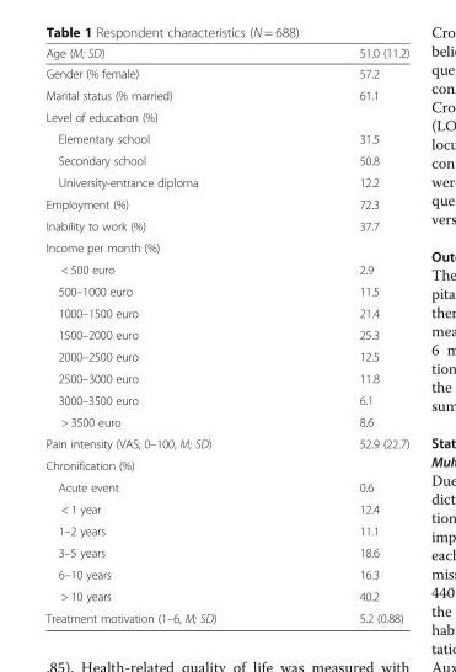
<table><thead><tr><td>Age (M; SD)</td><td>51.0 (11.2)</td></tr></thead><tbody><tr><td>Gender (% female)</td><td>57.2</td></tr><tr><td>Marital status (% married)</td><td>61.1</td></tr><tr><td colspan="2">Level of education (%)</td></tr><tr><td>Elementary school</td><td>31.5</td></tr><tr><td>Secondary school</td><td>50.8</td></tr><tr><td>University-entrance diploma</td><td>12.2</td></tr><tr><td>Employment (%)</td><td>72.3</td></tr><tr><td>Inability to work (%)</td><td>37.7</td></tr><tr><td colspan="2">Income per month (%)</td></tr><tr><td>&lt; 500 euro</td><td>2.9</td></tr><tr><td>500–1000 euro</td><td>11.5</td></tr><tr><td>1000–1500 euro</td><td>21.4</td></tr><tr><td>1500–2000 euro</td><td>25.3</td></tr><tr><td>2000–2500 euro</td><td>12.5</td></tr><tr><td>2500–3000 euro</td><td>11.8</td></tr><tr><td>3000–3500 euro</td><td>6.1</td></tr><tr><td>&gt; 3500 euro</td><td>8.6</td></tr><tr><td>Pain intensity (VAS; 0–100, M; SD)</td><td>52.9 (22.7)</td></tr><tr><td colspan="2">Chronification (%)</td></tr><tr><td>Acute event</td><td>0.6</td></tr><tr><td>&lt; 1 year</td><td>12.4</td></tr><tr><td>1–2 years</td><td>11.1</td></tr><tr><td>3–5 years</td><td>18.6</td></tr><tr><td>6–10 years</td><td>16.3</td></tr><tr><td>&gt; 10 years</td><td>40.2</td></tr><tr><td>Treatment motivation (1–6, M; SD)</td><td>5.2 (0.88)</td></tr></tbody></table>